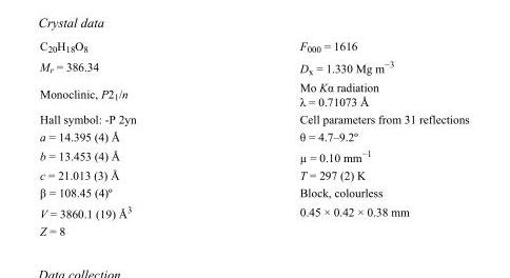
<table><tbody><tr><td>C<sub>20</sub>H<sub>18</sub>O<sub>8</sub></td><td>F<sub>000</sub> = 1616</td></tr><tr><td>M<sub>r</sub> = 386.34</td><td>D<sub>x</sub> = 1.330 Mg m<sup>−3</sup></td></tr><tr><td>Monoclinic, P2<sub>1</sub>/n</td><td>Mo Kα radiation λ = 0.71073 Å</td></tr><tr><td>Hall symbol: -P 2yn</td><td>Cell parameters from 31 reflections</td></tr><tr><td>a = 14.395 (4) Å</td><td>θ = 4.7–9.2º</td></tr><tr><td>b = 13.453 (4) Å</td><td>µ = 0.10 mm<sup>−1</sup></td></tr><tr><td>c = 21.013 (3) Å</td><td>T = 297 (2) K</td></tr><tr><td>β = 108.45 (4)º</td><td>Block, colourless</td></tr><tr><td>V = 3860.1 (19) Å<sup>3</sup></td><td>0.45 × 0.42 × 0.38 mm</td></tr><tr><td>Z = 8</td><td></td></tr></tbody></table>